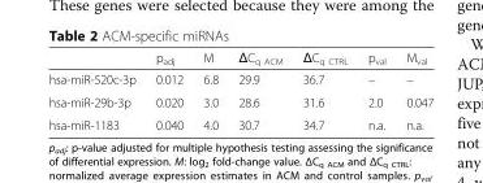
<table><thead><tr><td></td><td>p<sub>adj</sub></td><td>M</td><td>ΔC<sub>q ACM</sub></td><td>ΔC<sub>q CTRL</sub></td><td>p<sub>val</sub></td><td>M<sub>val</sub></td></tr></thead><tbody><tr><td>hsa-miR-520c-3p</td><td>0.012</td><td>6.8</td><td>29.9</td><td>36.7</td><td>–</td><td>–</td></tr><tr><td>hsa-miR-29b-3p</td><td>0.020</td><td>3.0</td><td>28.6</td><td>31.6</td><td>2.0</td><td>0.047</td></tr><tr><td>hsa-miR-1183</td><td>0.040</td><td>4.0</td><td>30.7</td><td>34.7</td><td>n.a.</td><td>n.a.</td></tr></tbody></table>